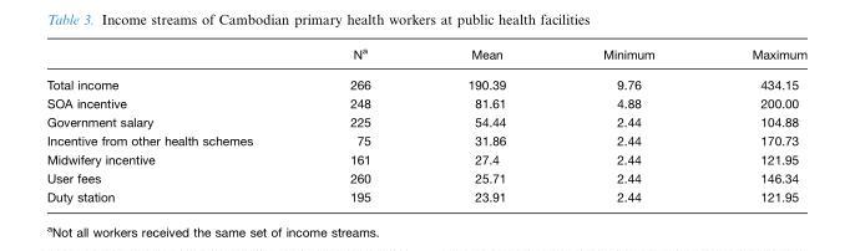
<table><thead><tr><td></td><td>N<sup>a</sup></td><td>Mean</td><td>Minimum</td><td>Maximum</td></tr></thead><tbody><tr><td>Total income</td><td>266</td><td>190.39</td><td>9.76</td><td>434.15</td></tr><tr><td>SOA incentive</td><td>248</td><td>81.61</td><td>4.88</td><td>200.00</td></tr><tr><td>Government salary</td><td>225</td><td>54.44</td><td>2.44</td><td>104.88</td></tr><tr><td>Incentive from other health schemes</td><td>75</td><td>31.86</td><td>2.44</td><td>170.73</td></tr><tr><td>Midwifery incentive</td><td>161</td><td>27.4</td><td>2.44</td><td>121.95</td></tr><tr><td>User fees</td><td>260</td><td>25.71</td><td>2.44</td><td>146.34</td></tr><tr><td>Duty station</td><td>195</td><td>23.91</td><td>2.44</td><td>121.95</td></tr></tbody></table>